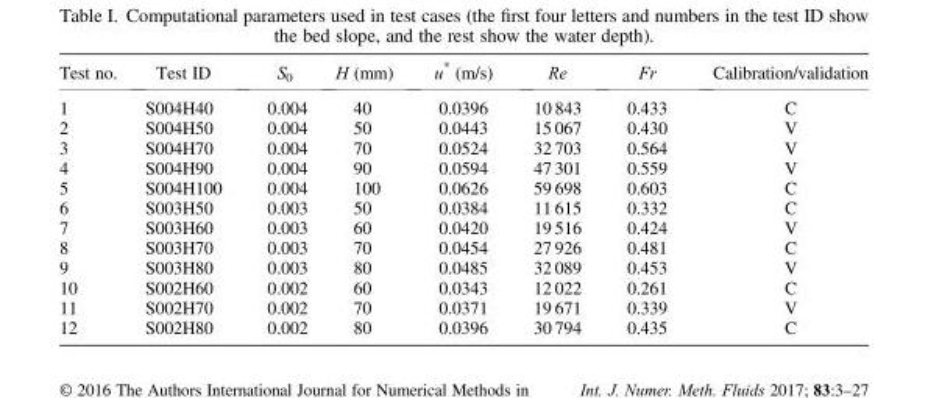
<table><thead><tr><td>Test no.</td><td>Test ID</td><td>S<sub>0</sub></td><td>H (mm)</td><td>u* (m/s)</td><td>Re</td><td>Fr</td><td>Calibration/validation</td></tr></thead><tbody><tr><td>1</td><td>S004H40</td><td>0.004</td><td>40</td><td>0.0396</td><td>10 843</td><td>0.433</td><td>C</td></tr><tr><td>2</td><td>S004H50</td><td>0.004</td><td>50</td><td>0.0443</td><td>15 067</td><td>0.430</td><td>V</td></tr><tr><td>3</td><td>S004H70</td><td>0.004</td><td>70</td><td>0.0524</td><td>32 703</td><td>0.564</td><td>V</td></tr><tr><td>4</td><td>S004H90</td><td>0.004</td><td>90</td><td>0.0594</td><td>47 301</td><td>0.559</td><td>V</td></tr><tr><td>5</td><td>S004H100</td><td>0.004</td><td>100</td><td>0.0626</td><td>59 698</td><td>0.603</td><td>C</td></tr><tr><td>6</td><td>S003H50</td><td>0.003</td><td>50</td><td>0.0384</td><td>11 615</td><td>0.332</td><td>C</td></tr><tr><td>7</td><td>S003H60</td><td>0.003</td><td>60</td><td>0.0420</td><td>19 516</td><td>0.424</td><td>V</td></tr><tr><td>8</td><td>S003H70</td><td>0.003</td><td>70</td><td>0.0454</td><td>27 926</td><td>0.481</td><td>C</td></tr><tr><td>9</td><td>S003H80</td><td>0.003</td><td>80</td><td>0.0485</td><td>32 089</td><td>0.453</td><td>V</td></tr><tr><td>10</td><td>S002H60</td><td>0.002</td><td>60</td><td>0.0343</td><td>12 022</td><td>0.261</td><td>C</td></tr><tr><td>11</td><td>S002H70</td><td>0.002</td><td>70</td><td>0.0371</td><td>19 671</td><td>0.339</td><td>V</td></tr><tr><td>12</td><td>S002H80</td><td>0.002</td><td>80</td><td>0.0396</td><td>30 794</td><td>0.435</td><td>C</td></tr></tbody></table>